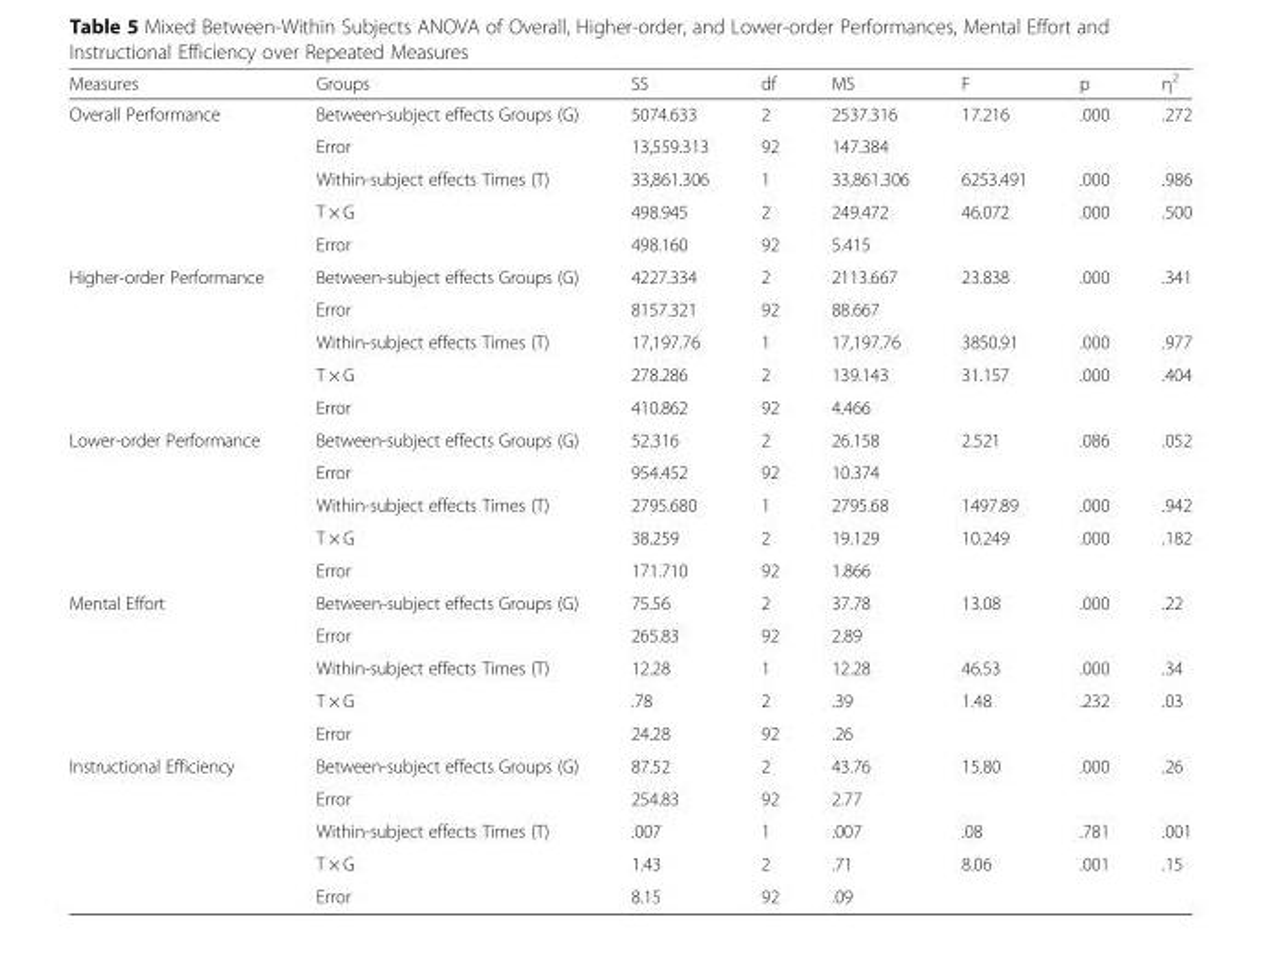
<table><thead><tr><td>Measures</td><td>Groups</td><td>SS</td><td>df</td><td>MS</td><td>F</td><td>p</td><td>η<sup>2</sup></td></tr></thead><tbody><tr><td rowspan="5">Overall Performance</td><td>Between-subject effects Groups (G)</td><td>5074.633</td><td>2</td><td>2537.316</td><td>17.216</td><td>.000</td><td>.272</td></tr><tr><td>Error</td><td>13,559.313</td><td>92</td><td>147.384</td><td></td><td></td><td></td></tr><tr><td>Within-subject effects Times (T)</td><td>33,861.306</td><td>1</td><td>33,861.306</td><td>6253.491</td><td>.000</td><td>.986</td></tr><tr><td>T × G</td><td>498.945</td><td>2</td><td>249.472</td><td>46.072</td><td>.000</td><td>.500</td></tr><tr><td>Error</td><td>498.160</td><td>92</td><td>5.415</td><td></td><td></td><td></td></tr><tr><td rowspan="5">Higher-order Performance</td><td>Between-subject effects Groups (G)</td><td>4227.334</td><td>2</td><td>2113.667</td><td>23.838</td><td>.000</td><td>.341</td></tr><tr><td>Error</td><td>8157.321</td><td>92</td><td>88.667</td><td></td><td></td><td></td></tr><tr><td>Within-subject effects Times (T)</td><td>17,197.76</td><td>1</td><td>17,197.76</td><td>3850.91</td><td>.000</td><td>.977</td></tr><tr><td>T × G</td><td>278.286</td><td>2</td><td>139.143</td><td>31.157</td><td>.000</td><td>.404</td></tr><tr><td>Error</td><td>410.862</td><td>92</td><td>4.466</td><td></td><td></td><td></td></tr><tr><td rowspan="5">Lower-order Performance</td><td>Between-subject effects Groups (G)</td><td>52.316</td><td>2</td><td>26.158</td><td>2.521</td><td>.086</td><td>.052</td></tr><tr><td>Error</td><td>954.452</td><td>92</td><td>10.374</td><td></td><td></td><td></td></tr><tr><td>Within-subject effects Times (T)</td><td>2795.680</td><td>1</td><td>2795.68</td><td>1497.89</td><td>.000</td><td>.942</td></tr><tr><td>T × G</td><td>38.259</td><td>2</td><td>19.129</td><td>10.249</td><td>.000</td><td>.182</td></tr><tr><td>Error</td><td>171.710</td><td>92</td><td>1.866</td><td></td><td></td><td></td></tr><tr><td rowspan="5">Mental Effort</td><td>Between-subject effects Groups (G)</td><td>75.56</td><td>2</td><td>37.78</td><td>13.08</td><td>.000</td><td>.22</td></tr><tr><td>Error</td><td>265.83</td><td>92</td><td>2.89</td><td></td><td></td><td></td></tr><tr><td>Within-subject effects Times (T)</td><td>12.28</td><td>1</td><td>12.28</td><td>46.53</td><td>.000</td><td>.34</td></tr><tr><td>T × G</td><td>.78</td><td>2</td><td>.39</td><td>1.48</td><td>.232</td><td>.03</td></tr><tr><td>Error</td><td>24.28</td><td>92</td><td>.26</td><td></td><td></td><td></td></tr><tr><td rowspan="5">Instructional Efficiency</td><td>Between-subject effects Groups (G)</td><td>87.52</td><td>2</td><td>43.76</td><td>15.80</td><td>.000</td><td>.26</td></tr><tr><td>Error</td><td>254.83</td><td>92</td><td>2.77</td><td></td><td></td><td></td></tr><tr><td>Within-subject effects Times (T)</td><td>.007</td><td>1</td><td>.007</td><td>.08</td><td>.781</td><td>.001</td></tr><tr><td>T × G</td><td>1.43</td><td>2</td><td>.71</td><td>8.06</td><td>.001</td><td>.15</td></tr><tr><td>Error</td><td>8.15</td><td>92</td><td>.09</td><td></td><td></td><td></td></tr></tbody></table>